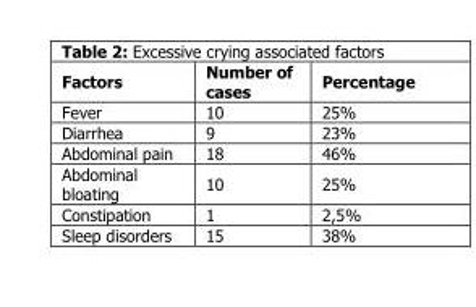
<table><thead><tr><td>Factors</td><td>Number of cases</td><td>Percentage</td></tr></thead><tbody><tr><td>Fever</td><td>10</td><td>25%</td></tr><tr><td>Diarrhea</td><td>9</td><td>23%</td></tr><tr><td>Abdominal pain</td><td>18</td><td>46%</td></tr><tr><td>Abdominal bloating</td><td>10</td><td>25%</td></tr><tr><td>Constipation</td><td>1</td><td>2,5%</td></tr><tr><td>Sleep disorders</td><td>15</td><td>38%</td></tr></tbody></table>